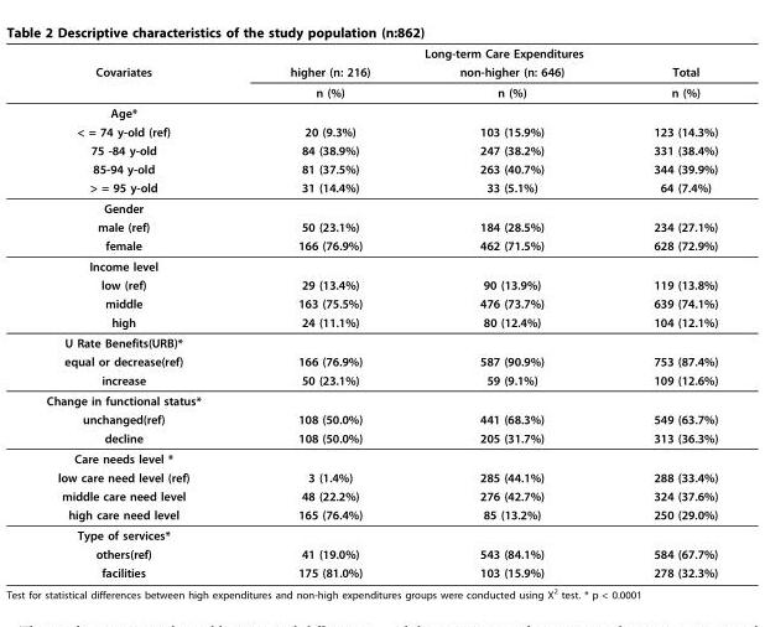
<table><thead><tr><td rowspan="3">Covariates</td><td colspan="3">Long-term Care Expenditures</td></tr><tr><td rowspan="2">higher (n: 216) n (%)</td><td rowspan="2">non-higher (n: 646) n (%)</td><td rowspan="2">Total n (%)</td></tr><tr></tr></thead><tbody><tr><td colspan="4">Age*</td></tr><tr><td>&lt; = 74 y-old (ref)</td><td>20 (9.3%)</td><td>103 (15.9%)</td><td>123 (14.3%)</td></tr><tr><td>75 -84 y-old</td><td>84 (38.9%)</td><td>247 (38.2%)</td><td>331 (38.4%)</td></tr><tr><td>85-94 y-old</td><td>81 (37.5%)</td><td>263 (40.7%)</td><td>344 (39.9%)</td></tr><tr><td>&gt; = 95 y-old</td><td>31 (14.4%)</td><td>33 (5.1%)</td><td>64 (7.4%)</td></tr><tr><td colspan="4">Gender</td></tr><tr><td>male (ref)</td><td>50 (23.1%)</td><td>184 (28.5%)</td><td>234 (27.1%)</td></tr><tr><td>female</td><td>166 (76.9%)</td><td>462 (71.5%)</td><td>628 (72.9%)</td></tr><tr><td colspan="4">Income level</td></tr><tr><td>low (ref)</td><td>29 (13.4%)</td><td>90 (13.9%)</td><td>119 (13.8%)</td></tr><tr><td>middle</td><td>163 (75.5%)</td><td>476 (73.7%)</td><td>639 (74.1%)</td></tr><tr><td>high</td><td>24 (11.1%)</td><td>80 (12.4%)</td><td>104 (12.1%)</td></tr><tr><td colspan="4">U Rate Benefits(URB)*</td></tr><tr><td>equal or decrease(ref)</td><td>166 (76.9%)</td><td>587 (90.9%)</td><td>753 (87.4%)</td></tr><tr><td>increase</td><td>50 (23.1%)</td><td>59 (9.1%)</td><td>109 (12.6%)</td></tr><tr><td colspan="4">Change in functional status*</td></tr><tr><td>unchanged(ref)</td><td>108 (50.0%)</td><td>441 (68.3%)</td><td>549 (63.7%)</td></tr><tr><td>decline</td><td>108 (50.0%)</td><td>205 (31.7%)</td><td>313 (36.3%)</td></tr><tr><td colspan="4">Care needs level *</td></tr><tr><td>low care need level (ref)</td><td>3 (1.4%)</td><td>285 (44.1%)</td><td>288 (33.4%)</td></tr><tr><td>middle care need level</td><td>48 (22.2%)</td><td>276 (42.7%)</td><td>324 (37.6%)</td></tr><tr><td>high care need level</td><td>165 (76.4%)</td><td>85 (13.2%)</td><td>250 (29.0%)</td></tr><tr><td colspan="4">Type of services*</td></tr><tr><td>others(ref)</td><td>41 (19.0%)</td><td>543 (84.1%)</td><td>584 (67.7%)</td></tr><tr><td>facilities</td><td>175 (81.0%)</td><td>103 (15.9%)</td><td>278 (32.3%)</td></tr></tbody></table>